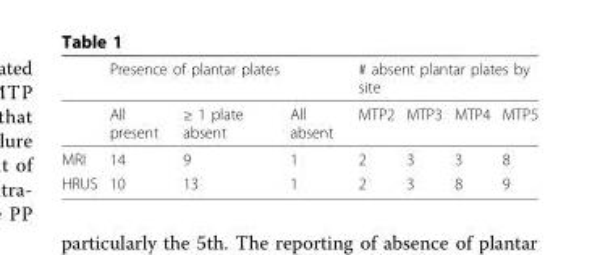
<table><thead><tr><td rowspan="2"></td><td colspan="3">Presence of plantar plates</td><td colspan="4"># absent plantar plates by site</td></tr><tr><td>All present</td><td>≥ 1 plate absent</td><td>All absent</td><td>MTP2</td><td>MTP3</td><td>MTP4</td><td>MTP5</td></tr></thead><tbody><tr><td>MRI</td><td>14</td><td>9</td><td>1</td><td>2</td><td>3</td><td>3</td><td>8</td></tr><tr><td>HRUS</td><td>10</td><td>13</td><td>1</td><td>2</td><td>3</td><td>8</td><td>9</td></tr></tbody></table>